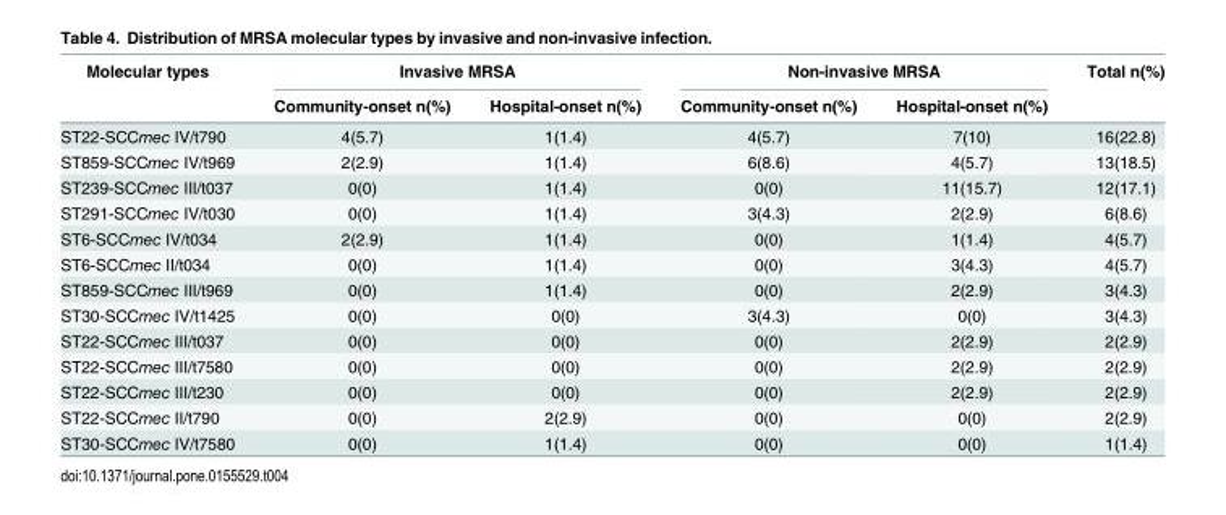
<table><thead><tr><td rowspan="2">Molecular types</td><td colspan="2">Invasive MRSA</td><td colspan="2">Non-invasive MRSA</td><td rowspan="2">Total n(%)</td></tr><tr><td>Community-onset n(%)</td><td>Hospital-onset n(%)</td><td>Community-onset n(%)</td><td>Hospital-onset n(%)</td></tr></thead><tbody><tr><td>ST22-SCCmec IV/t790</td><td>4(5.7)</td><td>1(1.4)</td><td>4(5.7)</td><td>7(10)</td><td>16(22.8)</td></tr><tr><td>ST859-SCCmec IV/t969</td><td>2(2.9)</td><td>1(1.4)</td><td>6(8.6)</td><td>4(5.7)</td><td>13(18.5)</td></tr><tr><td>ST239-SCCmec III/t037</td><td>0(0)</td><td>1(1.4)</td><td>0(0)</td><td>11(15.7)</td><td>12(17.1)</td></tr><tr><td>ST291-SCCmec IV/t030</td><td>0(0)</td><td>1(1.4)</td><td>3(4.3)</td><td>2(2.9)</td><td>6(8.6)</td></tr><tr><td>ST6-SCCmec IV/t034</td><td>2(2.9)</td><td>1(1.4)</td><td>0(0)</td><td>1(1.4)</td><td>4(5.7)</td></tr><tr><td>ST6-SCCmec II/t034</td><td>0(0)</td><td>1(1.4)</td><td>0(0)</td><td>3(4.3)</td><td>4(5.7)</td></tr><tr><td>ST859-SCCmec III/t969</td><td>0(0)</td><td>1(1.4)</td><td>0(0)</td><td>2(2.9)</td><td>3(4.3)</td></tr><tr><td>ST30-SCCmec IV/t1425</td><td>0(0)</td><td>0(0)</td><td>3(4.3)</td><td>0(0)</td><td>3(4.3)</td></tr><tr><td>ST22-SCCmec III/t037</td><td>0(0)</td><td>0(0)</td><td>0(0)</td><td>2(2.9)</td><td>2(2.9)</td></tr><tr><td>ST22-SCCmec III/t7580</td><td>0(0)</td><td>0(0)</td><td>0(0)</td><td>2(2.9)</td><td>2(2.9)</td></tr><tr><td>ST22-SCCmec III/t230</td><td>0(0)</td><td>0(0)</td><td>0(0)</td><td>2(2.9)</td><td>2(2.9)</td></tr><tr><td>ST22-SCCmec II/t790</td><td>0(0)</td><td>2(2.9)</td><td>0(0)</td><td>0(0)</td><td>2(2.9)</td></tr><tr><td>ST30-SCCmec IV/t7580</td><td>0(0)</td><td>1(1.4)</td><td>0(0)</td><td>0(0)</td><td>1(1.4)</td></tr></tbody></table>